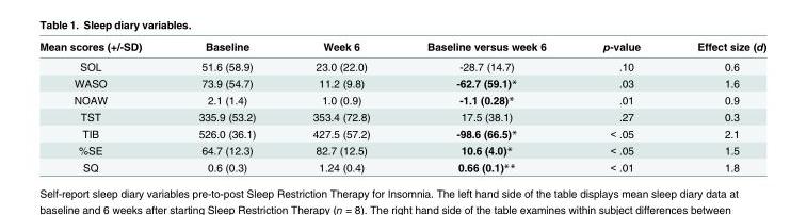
<table><thead><tr><td>Mean scores (+/-SD)</td><td>Baseline</td><td>Week 6</td><td>Baseline versus week 6</td><td>p-value</td><td>Effect size (d)</td></tr></thead><tbody><tr><td>SOL</td><td>51.6 (58.9)</td><td>23.0 (22.0)</td><td>-28.7 (14.7)</td><td>.10</td><td>0.6</td></tr><tr><td>WASO</td><td>73.9 (54.7)</td><td>11.2 (9.8)</td><td>-62.7 (59.1)*</td><td>.03</td><td>1.6</td></tr><tr><td>NOAW</td><td>2.1 (1.4)</td><td>1.0 (0.9)</td><td>-1.1 (0.28)*</td><td>.01</td><td>0.9</td></tr><tr><td>TST</td><td>335.9 (53.2)</td><td>353.4 (72.8)</td><td>17.5 (38.1)</td><td>.27</td><td>0.3</td></tr><tr><td>TIB</td><td>526.0 (36.1)</td><td>427.5 (57.2)</td><td>-98.6 (66.5)*</td><td>&lt; .05</td><td>2.1</td></tr><tr><td>%SE</td><td>64.7 (12.3)</td><td>82.7 (12.5)</td><td>10.6 (4.0)*</td><td>&lt; .05</td><td>1.5</td></tr><tr><td>SQ</td><td>0.6 (0.3)</td><td>1.24 (0.4)</td><td>0.66 (0.1)**</td><td>&lt; .01</td><td>1.8</td></tr></tbody></table>